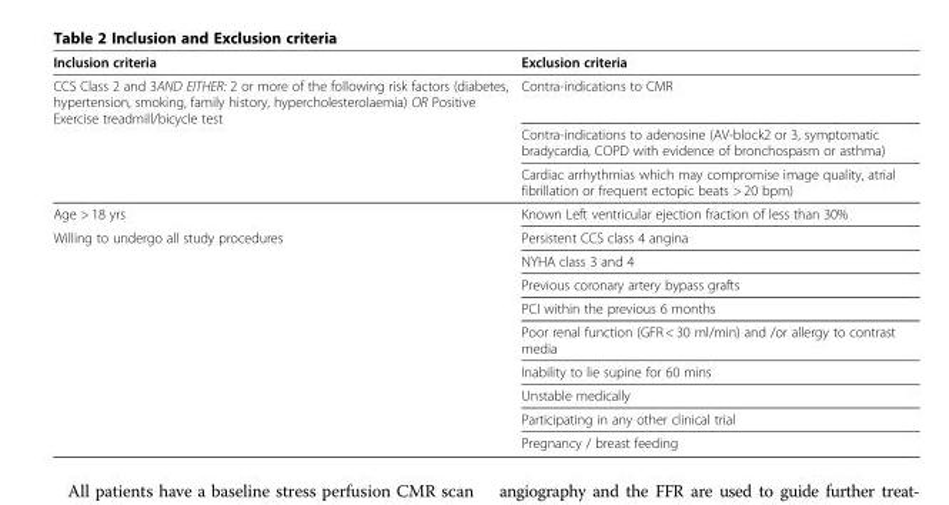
<table><thead><tr><td>Inclusion criteria</td><td>Exclusion criteria</td></tr></thead><tbody><tr><td rowspan="3">CCS Class 2 and 3AND EITHER: 2 or more of the following risk factors (diabetes, hypertension, smoking, family history, hypercholesterolaemia) OR Positive Exercise treadmill/bicycle test</td><td>Contra-indications to CMR</td></tr><tr><td>Contra-indications to adenosine (AV-block2 or 3, symptomatic bradycardia, COPD with evidence of bronchospasm or asthma)</td></tr><tr><td>Cardiac arrhythmias which may compromise image quality, atrial fibrillation or frequent ectopic beats &gt; 20 bpm)</td></tr><tr><td>Age &gt; 18 yrs</td><td>Known Left ventricular ejection fraction of less than 30%</td></tr><tr><td rowspan="9">Willing to undergo all study procedures</td><td>Persistent CCS class 4 angina</td></tr><tr><td>NYHA class 3 and 4</td></tr><tr><td>Previous coronary artery bypass grafts</td></tr><tr><td>PCI within the previous 6 months</td></tr><tr><td>Poor renal function (GFR &lt; 30 ml/min) and /or allergy to contrast media</td></tr><tr><td>Inability to lie supine for 60 mins</td></tr><tr><td>Unstable medically</td></tr><tr><td>Participating in any other clinical trial</td></tr><tr><td>Pregnancy / breast feeding</td></tr></tbody></table>